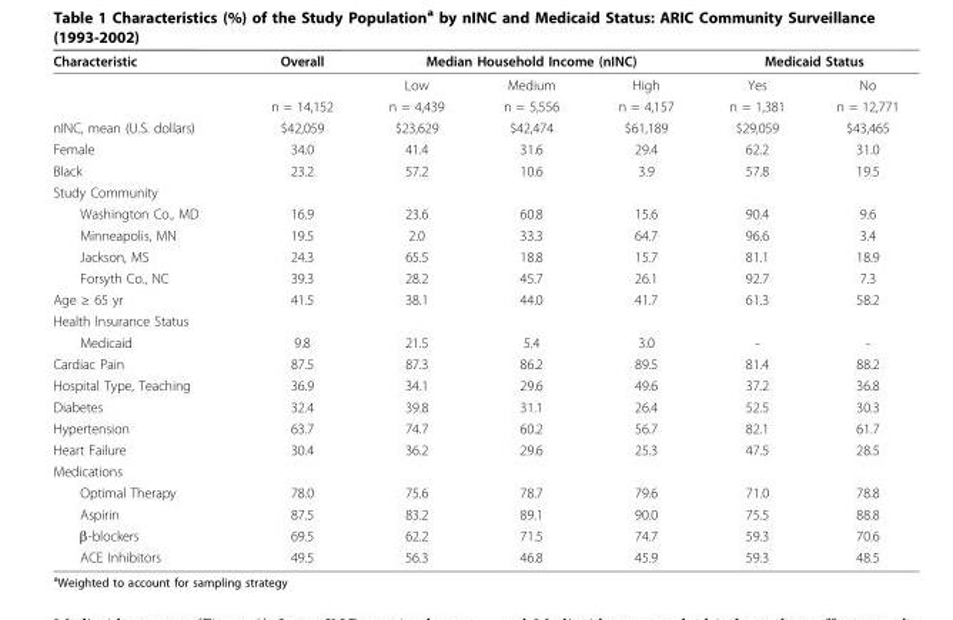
<table><thead><tr><td rowspan="2">Characteristic</td><td rowspan="2">Overall</td><td colspan="3">Median Household Income (nINC)</td><td colspan="2">Medicaid Status</td></tr><tr><td>Low</td><td>Medium</td><td>High</td><td>Yes</td><td>No</td></tr></thead><tbody><tr><td></td><td>n = 14,152</td><td>n = 4,439</td><td>n = 5,556</td><td>n = 4,157</td><td>n = 1,381</td><td>n = 12,771</td></tr><tr><td>nINC, mean (U.S. dollars)</td><td>$42,059</td><td>$23,629</td><td>$42,474</td><td>$61,189</td><td>$29,059</td><td>$43,465</td></tr><tr><td>Female</td><td>34.0</td><td>41.4</td><td>31.6</td><td>29.4</td><td>62.2</td><td>31.0</td></tr><tr><td>Black</td><td>23.2</td><td>57.2</td><td>10.6</td><td>3.9</td><td>57.8</td><td>19.5</td></tr><tr><td colspan="7">Study Community</td></tr><tr><td>Washington Co., MD</td><td>16.9</td><td>23.6</td><td>60.8</td><td>15.6</td><td>90.4</td><td>9.6</td></tr><tr><td>Minneapolis, MN</td><td>19.5</td><td>2.0</td><td>33.3</td><td>64.7</td><td>96.6</td><td>3.4</td></tr><tr><td>Jackson, MS</td><td>24.3</td><td>65.5</td><td>18.8</td><td>15.7</td><td>81.1</td><td>18.9</td></tr><tr><td>Forsyth Co., NC</td><td>39.3</td><td>28.2</td><td>45.7</td><td>26.1</td><td>92.7</td><td>7.3</td></tr><tr><td>Age ≥ 65 yr</td><td>41.5</td><td>38.1</td><td>44.0</td><td>41.7</td><td>61.3</td><td>58.2</td></tr><tr><td colspan="7">Health Insurance Status</td></tr><tr><td>Medicaid</td><td>9.8</td><td>21.5</td><td>5.4</td><td>3.0</td><td>-</td><td>-</td></tr><tr><td>Cardiac Pain</td><td>87.5</td><td>87.3</td><td>86.2</td><td>89.5</td><td>81.4</td><td>88.2</td></tr><tr><td>Hospital Type, Teaching</td><td>36.9</td><td>34.1</td><td>29.6</td><td>49.6</td><td>37.2</td><td>36.8</td></tr><tr><td>Diabetes</td><td>32.4</td><td>39.8</td><td>31.1</td><td>26.4</td><td>52.5</td><td>30.3</td></tr><tr><td>Hypertension</td><td>63.7</td><td>74.7</td><td>60.2</td><td>56.7</td><td>82.1</td><td>61.7</td></tr><tr><td>Heart Failure</td><td>30.4</td><td>36.2</td><td>29.6</td><td>25.3</td><td>47.5</td><td>28.5</td></tr><tr><td colspan="7">Medications</td></tr><tr><td>Optimal Therapy</td><td>78.0</td><td>75.6</td><td>78.7</td><td>79.6</td><td>71.0</td><td>78.8</td></tr><tr><td>Aspirin</td><td>87.5</td><td>83.2</td><td>89.1</td><td>90.0</td><td>75.5</td><td>88.8</td></tr><tr><td>β-blockers</td><td>69.5</td><td>62.2</td><td>71.5</td><td>74.7</td><td>59.3</td><td>70.6</td></tr><tr><td>ACE Inhibitors</td><td>49.5</td><td>56.3</td><td>46.8</td><td>45.9</td><td>59.3</td><td>48.5</td></tr></tbody></table>